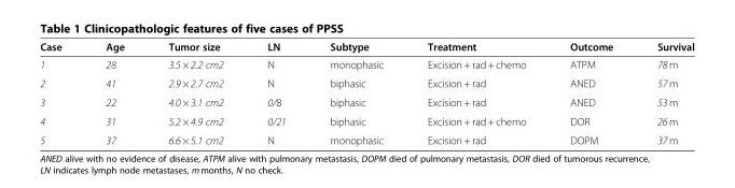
<table><thead><tr><td>Case</td><td>Age</td><td>Tumor size</td><td>LN</td><td>Subtype</td><td>Treatment</td><td>Outcome</td><td>Survival</td></tr></thead><tbody><tr><td>1</td><td>28</td><td>3.5 × 2.2 cm2</td><td>N</td><td>monophasic</td><td>Excision + rad + chemo</td><td>ATPM</td><td>78 m</td></tr><tr><td>2</td><td>41</td><td>2.9 × 2.7 cm2</td><td>N</td><td>biphasic</td><td>Excision + rad</td><td>ANED</td><td>57 m</td></tr><tr><td>3</td><td>22</td><td>4.0 × 3.1 cm2</td><td>0/8</td><td>biphasic</td><td>Excision + rad</td><td>ANED</td><td>53 m</td></tr><tr><td>4</td><td>31</td><td>5.2 × 4.9 cm2</td><td>0/21</td><td>biphasic</td><td>Excision + rad + chemo</td><td>DOR</td><td>26 m</td></tr><tr><td>5</td><td>37</td><td>6.6 × 5.1 cm2</td><td>N</td><td>monophasic</td><td>Excision + rad</td><td>DOPM</td><td>37 m</td></tr></tbody></table>